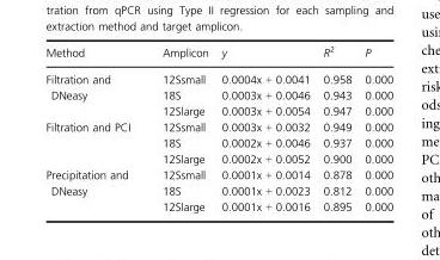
<table><thead><tr><td>Method</td><td>Amplicon</td><td>y</td><td>R<sup>2</sup></td><td>P</td></tr></thead><tbody><tr><td rowspan="3">Filtration and DNeasy</td><td>12Ssmall</td><td>0.0004x + 0.0041</td><td>0.958</td><td>0.000</td></tr><tr><td>18S</td><td>0.0003x + 0.0046</td><td>0.943</td><td>0.000</td></tr><tr><td>12Slarge</td><td>0.0003x + 0.0054</td><td>0.947</td><td>0.000</td></tr><tr><td rowspan="3">Filtration and PCI</td><td>12Ssmall</td><td>0.0003x + 0.0032</td><td>0.949</td><td>0.000</td></tr><tr><td>18S</td><td>0.0002x + 0.0046</td><td>0.937</td><td>0.000</td></tr><tr><td>12Slarge</td><td>0.0002x + 0.0052</td><td>0.900</td><td>0.000</td></tr><tr><td rowspan="3">Precipitation and DNeasy</td><td>12Ssmall</td><td>0.0001x + 0.0014</td><td>0.878</td><td>0.000</td></tr><tr><td>18S</td><td>0.0001x + 0.0023</td><td>0.812</td><td>0.000</td></tr><tr><td>12Slarge</td><td>0.0001x + 0.0016</td><td>0.895</td><td>0.000</td></tr></tbody></table>